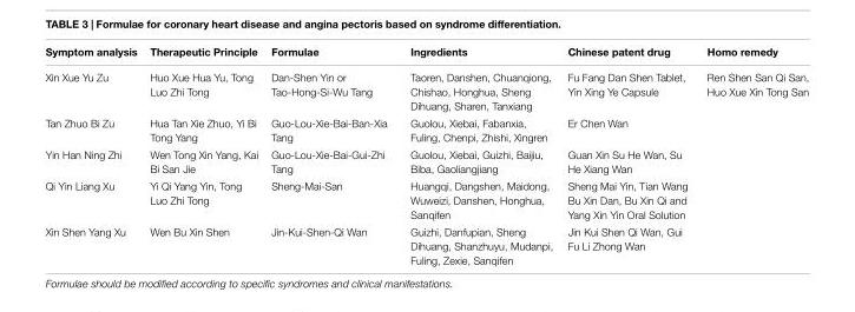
<table><thead><tr><td>Symptom analysis</td><td>Therapeutic Principle</td><td>Formulae</td><td>Ingredients</td><td>Chinese patent drug</td><td>Homo remedy</td></tr></thead><tbody><tr><td>Xin Xue Yu Zu</td><td>Huo Xue Hua Yu, Tong Luo Zhi Tong</td><td>Dan-Shen Yin or Tao-Hong-Si-Wu Tang</td><td>Taoren, Danshen, Chuanqiong, Chishao, Honghua, Sheng Dihuang, Sharen, Tanxiang</td><td>Fu Fang Dan Shen Tablet, Yin Xing Ye Capsule</td><td>Ren Shen San Qi San, Huo Xue Xin Tong San</td></tr><tr><td>Tan Zhuo Bi Zu</td><td>Hua Tan Xie Zhuo, Yi Bi Tong Yang</td><td>Guo-Lou-Xie-Bai-Ban-Xia Tang</td><td>Guolou, Xiebai, Fabanxia, Fuling, Chenpi, Zhishi, Xingren</td><td>Er Chen Wan</td><td></td></tr><tr><td>Yin Han Ning Zhi</td><td>Wen Tong Xin Yang, Kai Bi San Jie</td><td>Guo-Lou-Xie-Bai-Gui-Zhi Tang</td><td>Guolou, Xiebai, Guizhi, Baijiu, Biba, Gaoliangjiang</td><td>Guan Xin Su He Wan, Su He Xiang Wan</td><td></td></tr><tr><td>Qi Yin Liang Xu</td><td>Yi Qi Yang Yin, Tong Luo Zhi Tong</td><td>Sheng-Mai-San</td><td>Huangqi, Dangshen, Maidong, Wuweizi, Danshen, Honghua, Sanqifen</td><td>Sheng Mai Yin, Tian Wang Bu Xin Dan, Bu Xin Qi and Yang Xin Yin Oral Solution</td><td></td></tr><tr><td>Xin Shen Yang Xu</td><td>Wen Bu Xin Shen</td><td>Jin-Kui-Shen-Qi Wan</td><td>Guizhi, Danfupian, Sheng Dihuang, Shanzhuyu, Mudanpi, Fuling, Zexie, Sanqifen</td><td>Jin Kui Shen Qi Wan, Gui Fu Li Zhong Wan</td><td></td></tr></tbody></table>